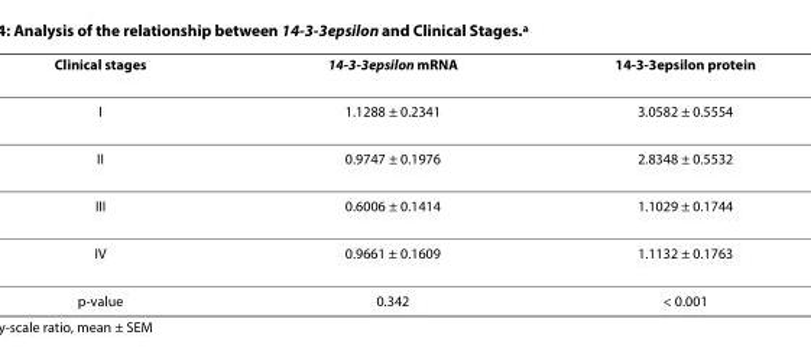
<table><thead><tr><td>Clinical stages</td><td>14-3-3epsilon mRNA</td><td>14-3-3epsilon protein</td></tr></thead><tbody><tr><td>I</td><td>1.1288 ± 0.2341</td><td>3.0582 ± 0.5554</td></tr><tr><td>II</td><td>0.9747 ± 0.1976</td><td>2.8348 ± 0.5532</td></tr><tr><td>III</td><td>0.6006 ± 0.1414</td><td>1.1029 ± 0.1744</td></tr><tr><td>IV</td><td>0.9661 ± 0.1609</td><td>1.1132 ± 0.1763</td></tr><tr><td>p-value</td><td>0.342</td><td>&lt; 0.001</td></tr></tbody></table>